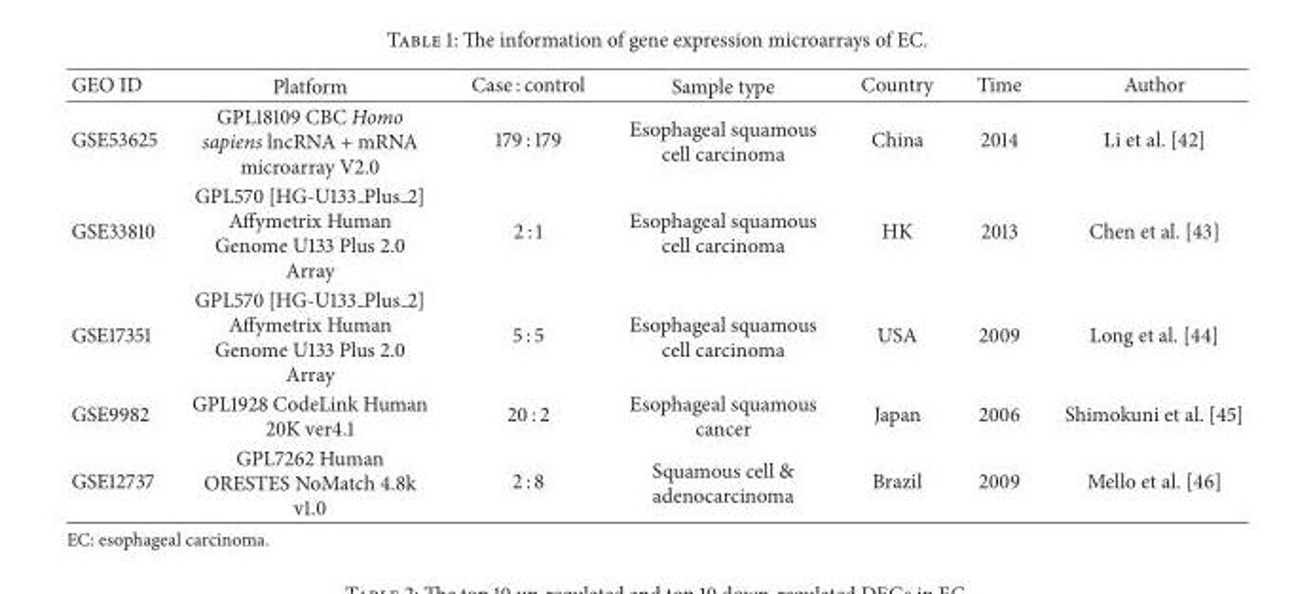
<table><thead><tr><td>GEO ID</td><td>Platform</td><td>Case : control</td><td>Sample type</td><td>Country</td><td>Time</td><td>Author</td></tr></thead><tbody><tr><td>GSE53625</td><td>GPL18109 CBC Homo sapiens lncRNA + mRNA microarray V2.0</td><td>179 : 179</td><td>Esophageal squamous cell carcinoma</td><td>China</td><td>2014</td><td>Li et al. [42]</td></tr><tr><td>GSE33810</td><td>GPL570 [HG-U133 <sub>Plus</sub> 2] Affymetrix Human Genome U133 Plus 2.0 Array</td><td>2 : 1</td><td>Esophageal squamous cell carcinoma</td><td>HK</td><td>2013</td><td>Chen et al. [43]</td></tr><tr><td>GSE17351</td><td>GPL570 [HG-U133 <sub>Plus</sub> 2] Affymetrix Human Genome U133 Plus 2.0 Array</td><td>5 : 5</td><td>Esophageal squamous cell carcinoma</td><td>USA</td><td>2009</td><td>Long et al. [44]</td></tr><tr><td>GSE9982</td><td>GPL1928 CodeLink Human 20K ver4.1</td><td>20 : 2</td><td>Esophageal squamous cancer</td><td>Japan</td><td>2006</td><td>Shimokuni et al. [45]</td></tr><tr><td>GSE12737</td><td>GPL7262 Human ORESTES NoMatch 4.8k v1.0</td><td>2 : 8</td><td>Squamous cell &amp; adenocarcinoma</td><td>Brazil</td><td>2009</td><td>Mello et al. [46]</td></tr></tbody></table>